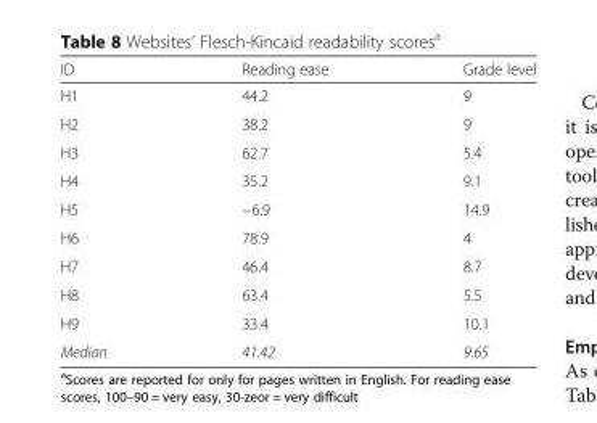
<table><thead><tr><td>ID</td><td>Reading ease</td><td>Grade level</td></tr></thead><tbody><tr><td>H1</td><td>44.2</td><td>9</td></tr><tr><td>H2</td><td>38.2</td><td>9</td></tr><tr><td>H3</td><td>62.7</td><td>5.4</td></tr><tr><td>H4</td><td>35.2</td><td>9.1</td></tr><tr><td>H5</td><td>−6.9</td><td>14.9</td></tr><tr><td>H6</td><td>78.9</td><td>4</td></tr><tr><td>H7</td><td>46.4</td><td>8.7</td></tr><tr><td>H8</td><td>63.4</td><td>5.5</td></tr><tr><td>H9</td><td>33.4</td><td>10.1</td></tr><tr><td>Median</td><td>41.42</td><td>9.65</td></tr></tbody></table>